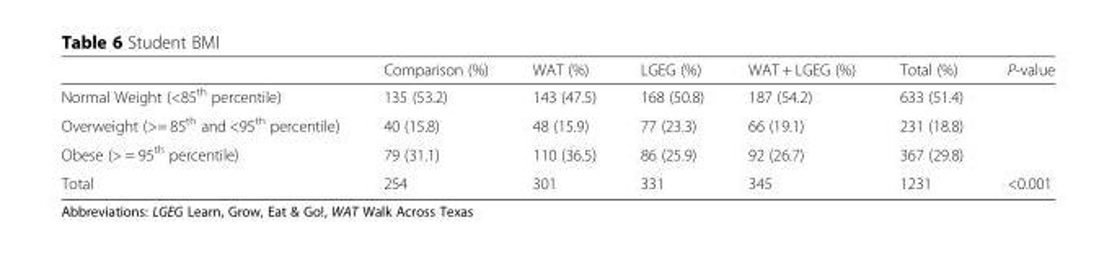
<table><thead><tr><td></td><td>Comparison (%)</td><td>WAT (%)</td><td>LGEG (%)</td><td>WAT + LGEG (%)</td><td>Total (%)</td><td>P-value</td></tr></thead><tbody><tr><td>Normal Weight (&lt;85<sup>th</sup> percentile)</td><td>135 (53.2)</td><td>143 (47.5)</td><td>168 (50.8)</td><td>187 (54.2)</td><td>633 (51.4)</td><td></td></tr><tr><td>Overweight (&gt;= 85<sup>th</sup> and &lt;95<sup>th</sup> percentile)</td><td>40 (15.8)</td><td>48 (15.9)</td><td>77 (23.3)</td><td>66 (19.1)</td><td>231 (18.8)</td><td></td></tr><tr><td>Obese (&gt; = 95<sup>th</sup> percentile)</td><td>79 (31.1)</td><td>110 (36.5)</td><td>86 (25.9)</td><td>92 (26.7)</td><td>367 (29.8)</td><td></td></tr><tr><td>Total</td><td>254</td><td>301</td><td>331</td><td>345</td><td>1231</td><td>&lt;0.001</td></tr></tbody></table>